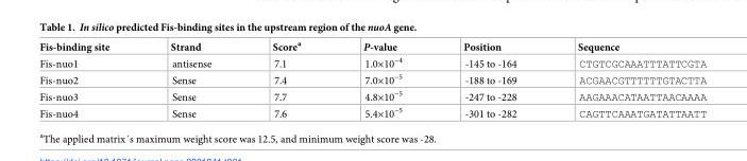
<table><thead><tr><td>Fis-binding site</td><td>Strand</td><td>Score<sup>a</sup></td><td>P-value</td><td>Position</td><td>Sequence</td></tr></thead><tbody><tr><td>Fis-nuo1</td><td>antisense</td><td>7.1</td><td>1.0×10<sup>−4</sup></td><td>-145 to -164</td><td>CTGTCGCAAATTTATTCGTA</td></tr><tr><td>Fis-nuo2</td><td>Sense</td><td>7.4</td><td>7.0×10<sup>−5</sup></td><td>-188 to -169</td><td>ACGAACGTTTTTTGTACTTA</td></tr><tr><td>Fis-nuo3</td><td>Sense</td><td>7.7</td><td>4.8×10<sup>−5</sup></td><td>-247 to -228</td><td>AAGAAACATAATTAACAAAA</td></tr><tr><td>Fis-nuo4</td><td>Sense</td><td>7.6</td><td>5.4×10<sup>−5</sup></td><td>-301 to -282</td><td>CAGTTCAAATGATATTAATT</td></tr></tbody></table>